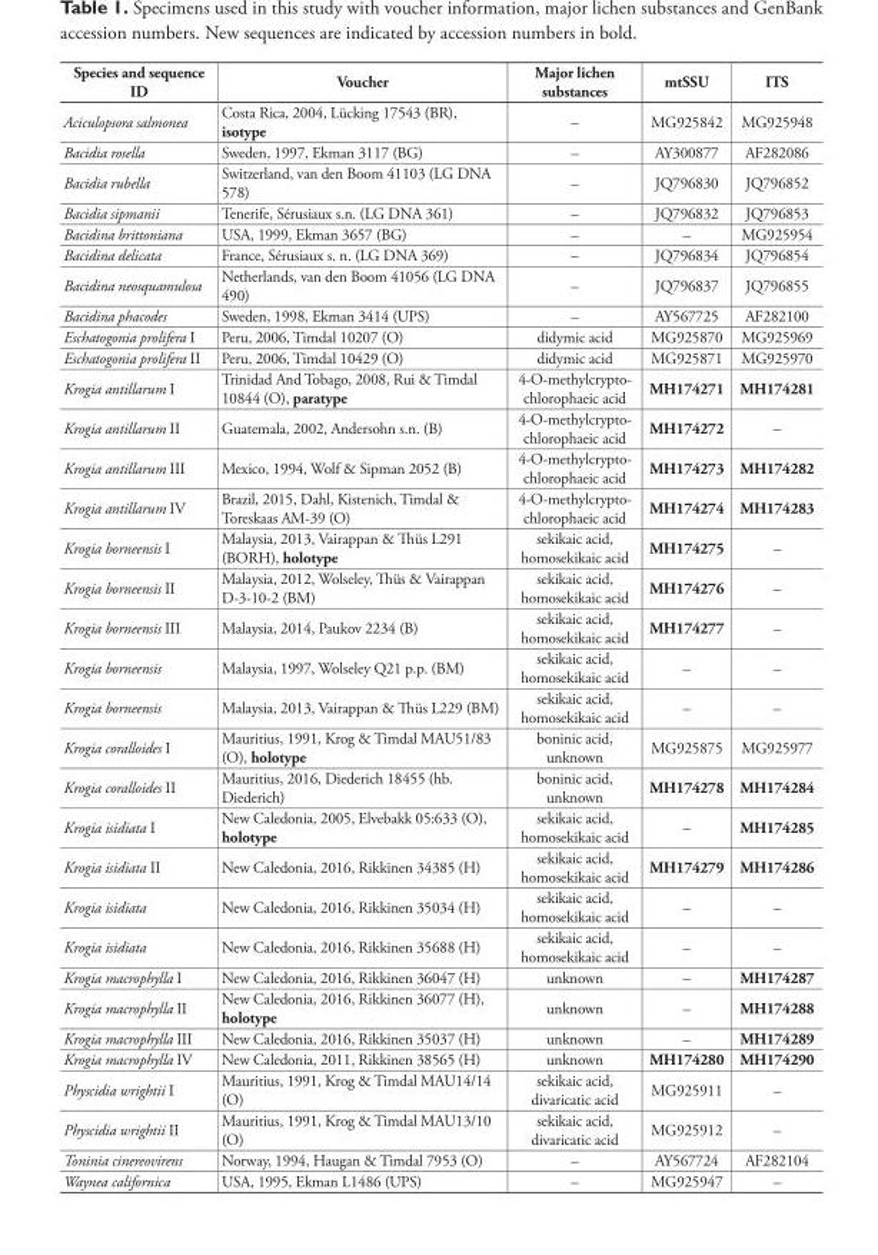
<table><thead><tr><td>Species and sequence ID</td><td>Voucher</td><td>Major lichen substances</td><td>mtSSU</td><td>ITS</td></tr></thead><tbody><tr><td>Aciculopsora salmonea</td><td>Costa Rica, 2004, Lücking 17543 (BR), isotype</td><td>–</td><td>MG925842</td><td>MG925948</td></tr><tr><td>Bacidia rosella</td><td>Sweden, 1997, Ekman 3117 (BG)</td><td>–</td><td>AY300877</td><td>AF282086</td></tr><tr><td>Bacidia rubella</td><td>Switzerland, van den Boom 41103 (LG DNA 578)</td><td>–</td><td>JQ796830</td><td>JQ796852</td></tr><tr><td>Bacidia sipmanii</td><td>Tenerife, Sérusiaux s.n. (LG DNA 361)</td><td>–</td><td>JQ796832</td><td>JQ796853</td></tr><tr><td>Bacidina brittoniana</td><td>USA, 1999, Ekman 3657 (BG)</td><td>–</td><td>–</td><td>MG925954</td></tr><tr><td>Bacidina delicata</td><td>France, Sérusiaux s. n. (LG DNA 369)</td><td>–</td><td>JQ796834</td><td>JQ796854</td></tr><tr><td>Bacidina neosquamulosa</td><td>Netherlands, van den Boom 41056 (LG DNA 490)</td><td>–</td><td>JQ796837</td><td>JQ796855</td></tr><tr><td>Bacidina phacodes</td><td>Sweden, 1998, Ekman 3414 (UPS)</td><td>–</td><td>AY567725</td><td>AF282100</td></tr><tr><td>Eschatogonia prolifera I</td><td>Peru, 2006, Timdal 10207 (O)</td><td>didymic acid</td><td>MG925870</td><td>MG925969</td></tr><tr><td>Eschatogonia prolifera II</td><td>Peru, 2006, Timdal 10429 (O)</td><td>didymic acid</td><td>MG925871</td><td>MG925970</td></tr><tr><td>Krogia antillarum I</td><td>Trinidad And Tobago, 2008, Rui &amp; Timdal 10844 (O), paratype</td><td>4-O-methylcrypto- chlorophaeic acid</td><td>MH174271</td><td>MH174281</td></tr><tr><td>Krogia antillarum II</td><td>Guatemala, 2002, Andersohn s.n. (B)</td><td>4-O-methylcrypto- chlorophaeic acid</td><td>MH174272</td><td>–</td></tr><tr><td>Krogia antillarum III</td><td>Mexico, 1994, Wolf &amp; Sipman 2052 (B)</td><td>4-O-methylcrypto- chlorophaeic acid</td><td>MH174273</td><td>MH174282</td></tr><tr><td>Krogia antillarum IV</td><td>Brazil, 2015, Dahl, Kistenich, Timdal &amp; Toreskaas AM-39 (O)</td><td>4-O-methylcrypto- chlorophaeic acid</td><td>MH174274</td><td>MH174283</td></tr><tr><td>Krogia borneensis I</td><td>Malaysia, 2013, Vairappan &amp; Thüs L291 (BORH), holotype</td><td>sekikaic acid, homosekikaic acid</td><td>MH174275</td><td>–</td></tr><tr><td>Krogia borneensis II</td><td>Malaysia, 2012, Wolseley, Thüs &amp; Vairappan D-3-10-2 (BM)</td><td>sekikaic acid, homosekikaic acid</td><td>MH174276</td><td>–</td></tr><tr><td>Krogia borneensis III</td><td>Malaysia, 2014, Paukov 2234 (B)</td><td>sekikaic acid, homosekikaic acid</td><td>MH174277</td><td>–</td></tr><tr><td>Krogia borneensis</td><td>Malaysia, 1997, Wolseley Q21 p.p. (BM)</td><td>sekikaic acid, homosekikaic acid</td><td>–</td><td>–</td></tr><tr><td>Krogia borneensis</td><td>Malaysia, 2013, Vairappan &amp; Thüs L229 (BM)</td><td>sekikaic acid, homosekikaic acid</td><td>–</td><td>–</td></tr><tr><td>Krogia coralloides I</td><td>Mauritius, 1991, Krog &amp; Timdal MAU51/83 (O), holotype</td><td>boninic acid, unknown</td><td>MG925875</td><td>MG925977</td></tr><tr><td>Krogia coralloides II</td><td>Mauritius, 2016, Diederich 18455 (hb. Diederich)</td><td>boninic acid, unknown</td><td>MH174278</td><td>MH174284</td></tr><tr><td>Krogia isidiata I</td><td>New Caledonia, 2005, Elvebakk 05:633 (O), holotype</td><td>sekikaic acid, homosekikaic acid</td><td>–</td><td>MH174285</td></tr><tr><td>Krogia isidiata II</td><td>New Caledonia, 2016, Rikkinen 34385 (H)</td><td>sekikaic acid, homosekikaic acid</td><td>MH174279</td><td>MH174286</td></tr><tr><td>Krogia isidiata</td><td>New Caledonia, 2016, Rikkinen 35034 (H)</td><td>sekikaic acid, homosekikaic acid</td><td>–</td><td>–</td></tr><tr><td>Krogia isidiata</td><td>New Caledonia, 2016, Rikkinen 35688 (H)</td><td>sekikaic acid, homosekikaic acid</td><td>–</td><td>–</td></tr><tr><td>Krogia macrophylla I</td><td>New Caledonia, 2016, Rikkinen 36047 (H)</td><td>unknown</td><td>–</td><td>MH174287</td></tr><tr><td>Krogia macrophylla II</td><td>New Caledonia, 2016, Rikkinen 36077 (H), holotype</td><td>unknown</td><td>–</td><td>MH174288</td></tr><tr><td>Krogia macrophylla III</td><td>New Caledonia, 2016, Rikkinen 35037 (H)</td><td>unknown</td><td>–</td><td>MH174289</td></tr><tr><td>Krogia macrophylla IV</td><td>New Caledonia, 2011, Rikkinen 38565 (H)</td><td>unknown</td><td>MH174280</td><td>MH174290</td></tr><tr><td>Physcidia wrightii I</td><td>Mauritius, 1991, Krog &amp; Timdal MAU14/14 (O)</td><td>sekikaic acid, divaricatic acid</td><td>MG925911</td><td>–</td></tr><tr><td>Physcidia wrightii II</td><td>Mauritius, 1991, Krog &amp; Timdal MAU13/10 (O)</td><td>sekikaic acid, divaricatic acid</td><td>MG925912</td><td>–</td></tr><tr><td>Toninia cinereovirens</td><td>Norway, 1994, Haugan &amp; Timdal 7953 (O)</td><td>–</td><td>AY567724</td><td>AF282104</td></tr><tr><td>Waynea californica</td><td>USA, 1995, Ekman L1486 (UPS)</td><td>–</td><td>MG925947</td><td>–</td></tr></tbody></table>